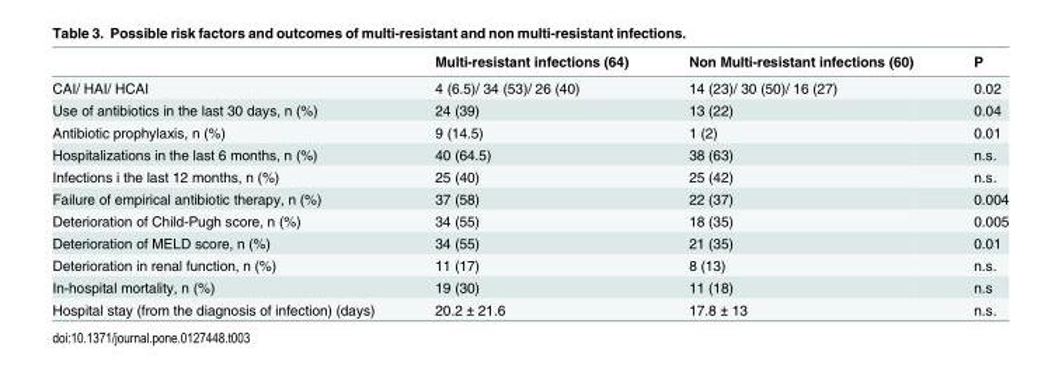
<table><thead><tr><td></td><td>Multi-resistant infections (64)</td><td>Non Multi-resistant infections (60)</td><td>P</td></tr></thead><tbody><tr><td>CAI/ HAI/ HCAI</td><td>4 (6.5)/ 34 (53)/ 26 (40)</td><td>14 (23)/ 30 (50)/ 16 (27)</td><td>0.02</td></tr><tr><td>Use of antibiotics in the last 30 days, n (%)</td><td>24 (39)</td><td>13 (22)</td><td>0.04</td></tr><tr><td>Antibiotic prophylaxis, n (%)</td><td>9 (14.5)</td><td>1 (2)</td><td>0.01</td></tr><tr><td>Hospitalizations in the last 6 months, n (%)</td><td>40 (64.5)</td><td>38 (63)</td><td>n.s.</td></tr><tr><td>Infections i the last 12 months, n (%)</td><td>25 (40)</td><td>25 (42)</td><td>n.s.</td></tr><tr><td>Failure of empirical antibiotic therapy, n (%)</td><td>37 (58)</td><td>22 (37)</td><td>0.004</td></tr><tr><td>Deterioration of Child-Pugh score, n (%)</td><td>34 (55)</td><td>18 (35)</td><td>0.005</td></tr><tr><td>Deterioration of MELD score, n (%)</td><td>34 (55)</td><td>21 (35)</td><td>0.01</td></tr><tr><td>Deterioration in renal function, n (%)</td><td>11 (17)</td><td>8 (13)</td><td>n.s.</td></tr><tr><td>In-hospital mortality, n (%)</td><td>19 (30)</td><td>11 (18)</td><td>n.s</td></tr><tr><td>Hospital stay (from the diagnosis of infection) (days)</td><td>20.2 ± 21.6</td><td>17.8 ± 13</td><td>n.s.</td></tr></tbody></table>